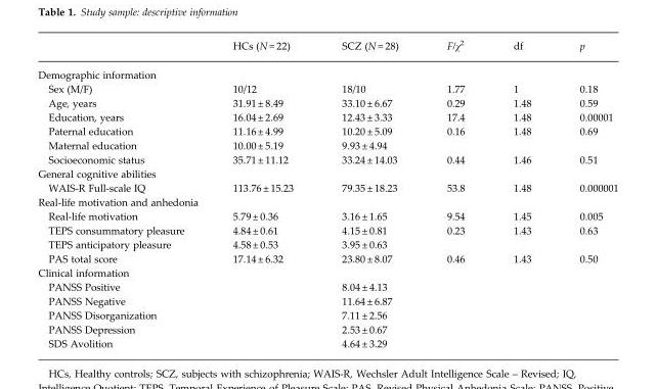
<table><thead><tr><td></td><td>HCs (N = 22)</td><td>SCZ (N = 28)</td><td>F/χ<sup>2</sup></td><td>df</td><td>p</td></tr></thead><tbody><tr><td colspan="6">Demographic information</td></tr><tr><td>Sex (M/F)</td><td>10/12</td><td>18/10</td><td>1.77</td><td>1</td><td>0.18</td></tr><tr><td>Age, years</td><td>31.91 ± 8.49</td><td>33.10 ± 6.67</td><td>0.29</td><td>1.48</td><td>0.59</td></tr><tr><td>Education, years</td><td>16.04 ± 2.69</td><td>12.43 ± 3.33</td><td>17.4</td><td>1.48</td><td>0.00001</td></tr><tr><td>Paternal education</td><td>11.16 ± 4.99</td><td>10.20 ± 5.09</td><td rowspan="2">0.16</td><td rowspan="2">1.48</td><td rowspan="2">0.69</td></tr><tr><td>Maternal education</td><td>10.00 ± 5.19</td><td>9.93 ± 4.94</td></tr><tr><td>Socioeconomic status</td><td>35.71 ± 11.12</td><td>33.24 ± 14.03</td><td>0.44</td><td>1.46</td><td>0.51</td></tr><tr><td colspan="6">General cognitive abilities</td></tr><tr><td>WAIS-R Full-scale IQ</td><td>113.76 ± 15.23</td><td>79.35 ± 18.23</td><td>53.8</td><td>1.48</td><td>0.000001</td></tr><tr><td colspan="6">Real-life motivation and anhedonia</td></tr><tr><td>Real-life motivation</td><td>5.79 ± 0.36</td><td>3.16 ± 1.65</td><td>9.54</td><td>1.45</td><td>0.005</td></tr><tr><td>TEPS consummatory pleasure</td><td>4.84 ± 0.61</td><td>4.15 ± 0.81</td><td rowspan="2">0.23</td><td rowspan="2">1.43</td><td rowspan="2">0.63</td></tr><tr><td>TEPS anticipatory pleasure</td><td>4.58 ± 0.53</td><td>3.95 ± 0.63</td></tr><tr><td>PAS total score</td><td>17.14 ± 6.32</td><td>23.80 ± 8.07</td><td>0.46</td><td>1.43</td><td>0.50</td></tr><tr><td colspan="6">Clinical information</td></tr><tr><td>PANSS Positive</td><td></td><td>8.04 ± 4.13</td><td></td><td></td><td></td></tr><tr><td>PANSS Negative</td><td></td><td>11.64 ± 6.87</td><td></td><td></td><td></td></tr><tr><td>PANSS Disorganization</td><td></td><td>7.11 ± 2.56</td><td></td><td></td><td></td></tr><tr><td>PANSS Depression</td><td></td><td>2.53 ± 0.67</td><td></td><td></td><td></td></tr><tr><td>SDS Avolition</td><td></td><td>4.64 ± 3.29</td><td></td><td></td><td></td></tr></tbody></table>